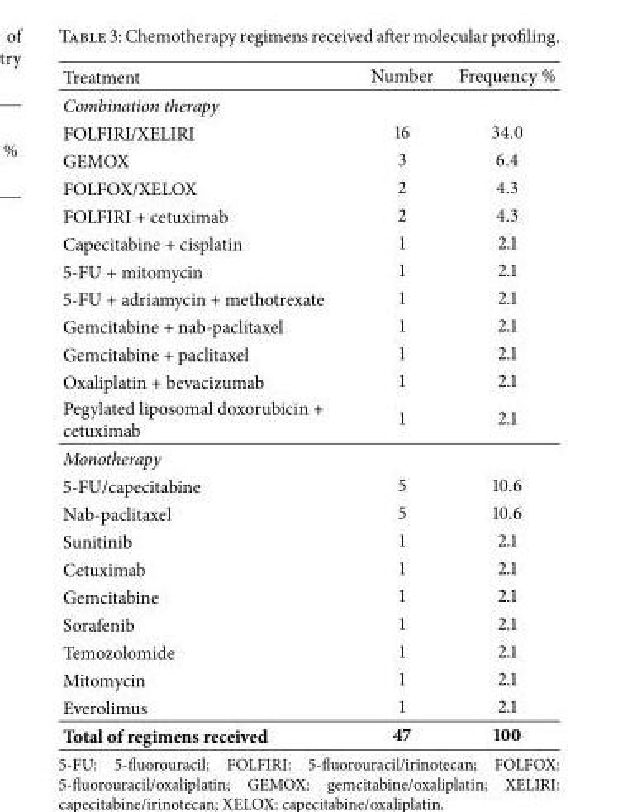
<table><thead><tr><td>Treatment</td><td>Number</td><td>Frequency %</td></tr></thead><tbody><tr><td colspan="3">Combination therapy</td></tr><tr><td>FOLFIRI/XELIRI</td><td>16</td><td>34.0</td></tr><tr><td>GEMOX</td><td>3</td><td>6.4</td></tr><tr><td>FOLFOX/XELOX</td><td>2</td><td>4.3</td></tr><tr><td>FOLFIRI + cetuximab</td><td>2</td><td>4.3</td></tr><tr><td>Capecitabine + cisplatin</td><td>1</td><td>2.1</td></tr><tr><td>5-FU + mitomycin</td><td>1</td><td>2.1</td></tr><tr><td>5-FU + adriamycin + methotrexate</td><td>1</td><td>2.1</td></tr><tr><td>Gemcitabine + nab-paclitaxel</td><td>1</td><td>2.1</td></tr><tr><td>Gemcitabine + paclitaxel</td><td>1</td><td>2.1</td></tr><tr><td>Oxaliplatin + bevacizumab</td><td>1</td><td>2.1</td></tr><tr><td>Pegylated liposomal doxorubicin + cetuximab</td><td>1</td><td>2.1</td></tr><tr><td colspan="3">Monotherapy</td></tr><tr><td>5-FU/capecitabine</td><td>5</td><td>10.6</td></tr><tr><td>Nab-paclitaxel</td><td>5</td><td>10.6</td></tr><tr><td>Sunitinib</td><td>1</td><td>2.1</td></tr><tr><td>Cetuximab</td><td>1</td><td>2.1</td></tr><tr><td>Gemcitabine</td><td>1</td><td>2.1</td></tr><tr><td>Sorafenib</td><td>1</td><td>2.1</td></tr><tr><td>Temozolomide</td><td>1</td><td>2.1</td></tr><tr><td>Mitomycin</td><td>1</td><td>2.1</td></tr><tr><td>Everolimus</td><td>1</td><td>2.1</td></tr><tr><td>Total of regimens received</td><td>47</td><td>100</td></tr></tbody></table>